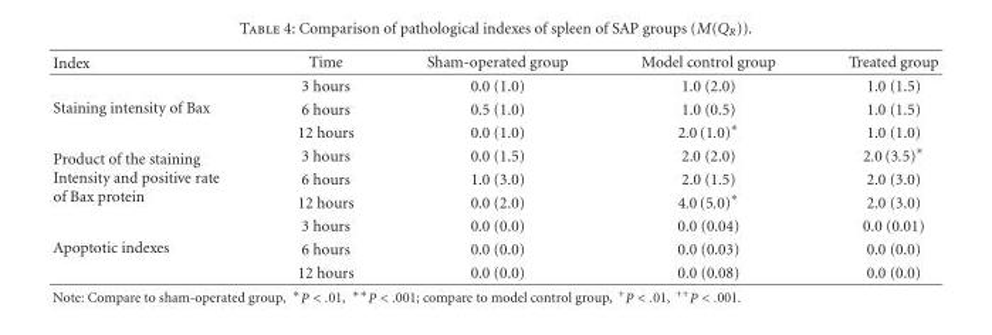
<table><thead><tr><td>Index</td><td>Time</td><td>Sham-operated group</td><td>Model control group</td><td>Treated group</td></tr></thead><tbody><tr><td rowspan="3">Staining intensity of Bax</td><td>3 hours</td><td>0.0 (1.0)</td><td>1.0 (2.0)</td><td>1.0 (1.5)</td></tr><tr><td>6 hours</td><td>0.5 (1.0)</td><td>1.0 (0.5)</td><td>1.0 (1.5)</td></tr><tr><td>12 hours</td><td>0.0 (1.0)</td><td>2.0(1.0)∗</td><td>1.0 (1.0)</td></tr><tr><td rowspan="3">Product of the staining Intensity and positive rate of Bax protein</td><td>3 hours</td><td>0.0 (1.5)</td><td>2.0 (2.0)</td><td>2.0(3.5)∗</td></tr><tr><td>6 hours</td><td>1.0 (3.0)</td><td>2.0 (1.5)</td><td>2.0 (3.0)</td></tr><tr><td>12 hours</td><td>0.0 (2.0)</td><td>4.0(5.0)∗</td><td>2.0 (3.0)</td></tr><tr><td rowspan="3">Apoptotic indexes</td><td>3 hours</td><td>0.0 (0.0)</td><td>0.0 (0.04)</td><td>0.0 (0.01)</td></tr><tr><td>6 hours</td><td>0.0 (0.0)</td><td>0.0 (0.03)</td><td>0.0 (0.0)</td></tr><tr><td>12 hours</td><td>0.0 (0.0)</td><td>0.0 (0.08)</td><td>0.0 (0.0)</td></tr></tbody></table>